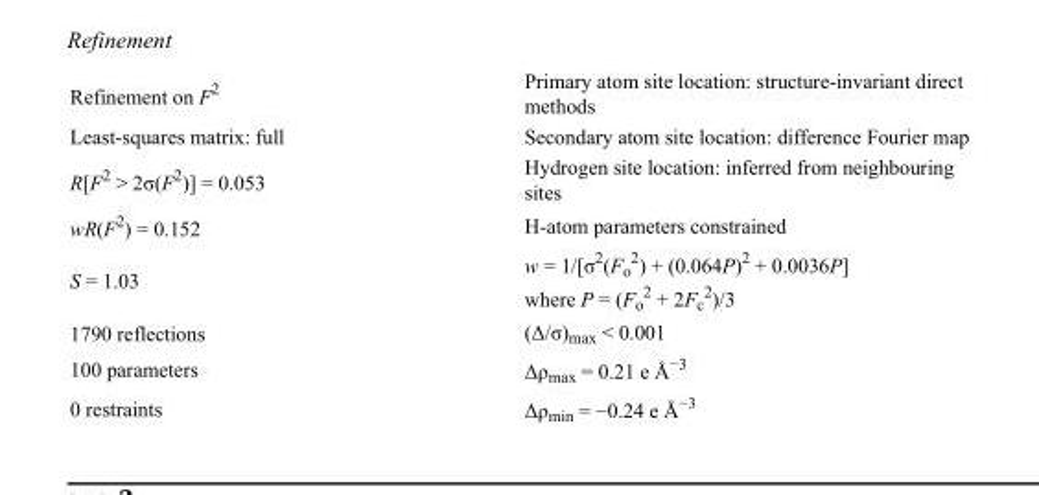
<table><tbody><tr><td>Refinement on F<sup>2</sup></td><td>Primary atom site location: structure-invariant direct methods</td></tr><tr><td>Least-squares matrix: full</td><td>Secondary atom site location: difference Fourier map</td></tr><tr><td>R[F<sup>2</sup> &gt; 2σ(F<sup>2</sup>)] = 0.053</td><td>Hydrogen site location: inferred from neighbouring sites</td></tr><tr><td>wR(F<sup>2</sup>) = 0.152</td><td>H-atom parameters constrained</td></tr><tr><td>S = 1.03</td><td>w = 1/[σ<sup>2</sup>(F<sub>o</sub> <sup>2</sup>) + (0.064P)<sup>2</sup> + 0.0036P] where P = (F<sub>o</sub> <sup>2</sup> + 2F<sub>c</sub> <sup>2</sup>)/3</td></tr><tr><td>1790 reflections</td><td>(Δ/σ)<sub>max</sub> &lt; 0.001</td></tr><tr><td>100 parameters</td><td>Δρ<sub>max</sub> = 0.21 e Å<sup>−3</sup></td></tr><tr><td>0 restraints</td><td>Δρ<sub>min</sub> = −0.24 e Å<sup>−3</sup></td></tr></tbody></table>